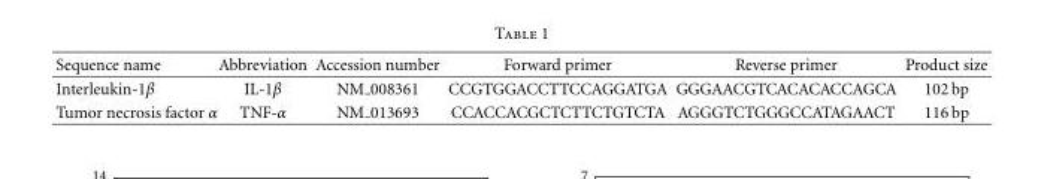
<table><thead><tr><td>Sequence name</td><td>Abbreviation</td><td>Accession number</td><td>Forward primer</td><td>Reverse primer</td><td>Product size</td></tr></thead><tbody><tr><td>Interleukin-1β</td><td>IL-1β</td><td>NM 008361</td><td>CCGTGGACCTTCCAGGATGA</td><td>GGGAACGTCACACACCAGCA</td><td>102 bp</td></tr><tr><td>Tumor necrosis factor α</td><td>TNF-α</td><td>NM 013693</td><td>CCACCACGCTCTTCTGTCTA</td><td>AGGGTCTGGGCCATAGAACT</td><td>116 bp</td></tr></tbody></table>